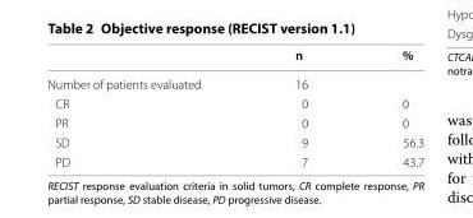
<table><thead><tr><td></td><td>n</td><td>%</td></tr></thead><tbody><tr><td>Number of patients evaluated</td><td>16</td><td></td></tr><tr><td>CR</td><td>0</td><td>0</td></tr><tr><td>PR</td><td>0</td><td>0</td></tr><tr><td>SD</td><td>9</td><td>56.3</td></tr><tr><td>PD</td><td>7</td><td>43.7</td></tr></tbody></table>